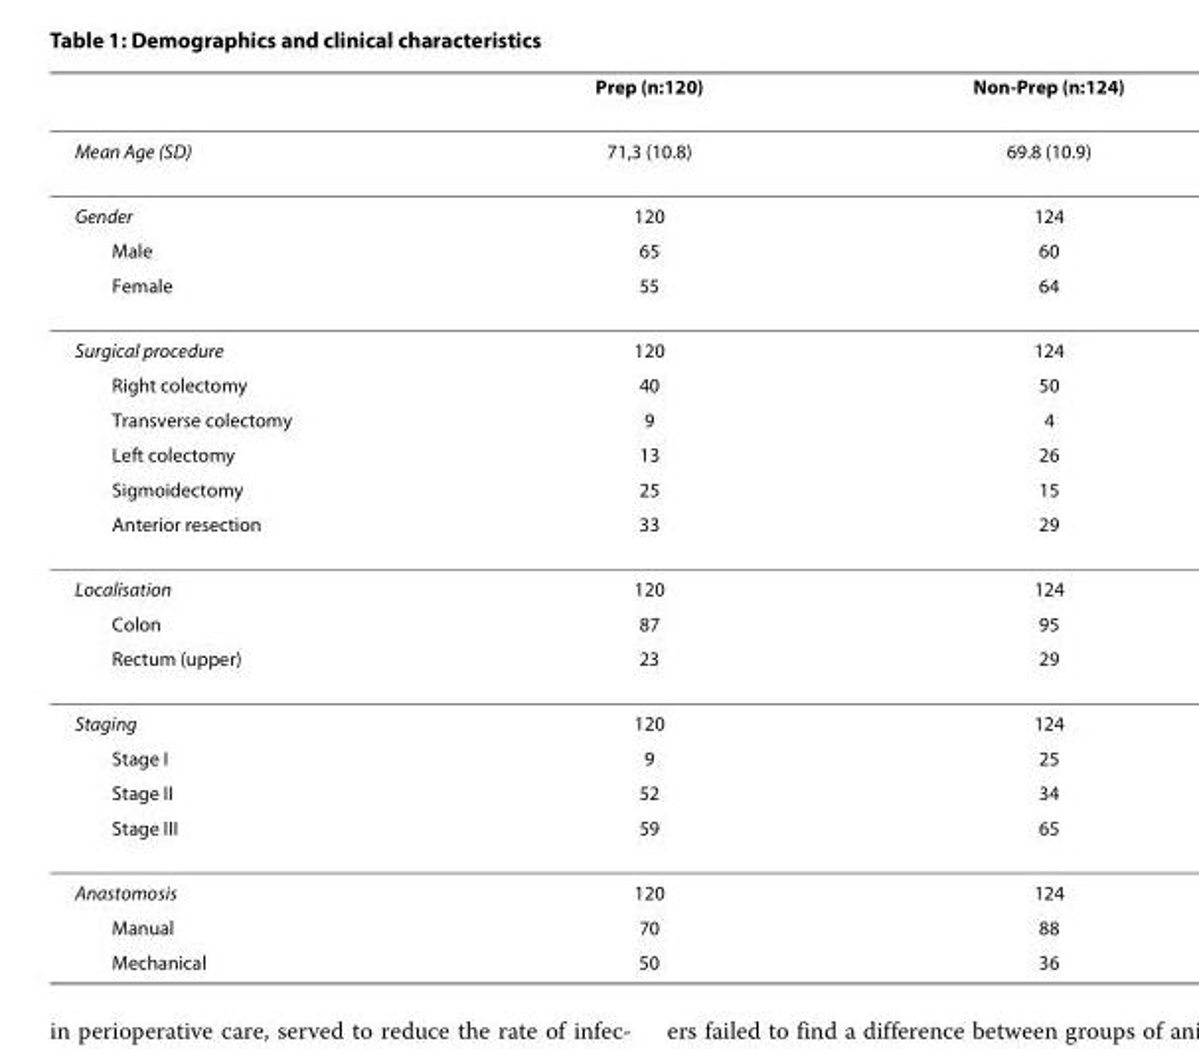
<table><thead><tr><td></td><td>Prep (n:120)</td><td>Non-Prep (n:124)</td></tr></thead><tbody><tr><td>Mean Age (SD)</td><td>71,3 (10.8)</td><td>69.8 (10.9)</td></tr><tr><td>Gender</td><td>120</td><td>124</td></tr><tr><td>Male</td><td>65</td><td>60</td></tr><tr><td>Female</td><td>55</td><td>64</td></tr><tr><td>Surgical procedure</td><td>120</td><td>124</td></tr><tr><td>Right colectomy</td><td>40</td><td>50</td></tr><tr><td>Transverse colectomy</td><td>9</td><td>4</td></tr><tr><td>Left colectomy</td><td>13</td><td>26</td></tr><tr><td>Sigmoidectomy</td><td>25</td><td>15</td></tr><tr><td>Anterior resection</td><td>33</td><td>29</td></tr><tr><td>Localisation</td><td>120</td><td>124</td></tr><tr><td>Colon</td><td>87</td><td>95</td></tr><tr><td>Rectum (upper)</td><td>23</td><td>29</td></tr><tr><td>Staging</td><td>120</td><td>124</td></tr><tr><td>Stage I</td><td>9</td><td>25</td></tr><tr><td>Stage II</td><td>52</td><td>34</td></tr><tr><td>Stage III</td><td>59</td><td>65</td></tr><tr><td>Anastomosis</td><td>120</td><td>124</td></tr><tr><td>Manual</td><td>70</td><td>88</td></tr><tr><td>Mechanical</td><td>50</td><td>36</td></tr></tbody></table>